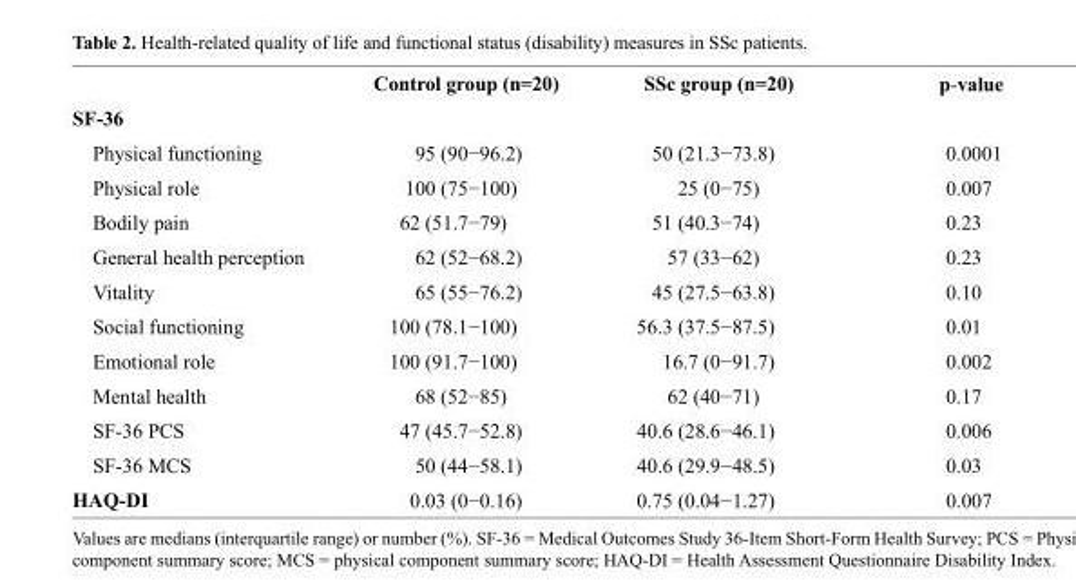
<table><thead><tr><td></td><td>Control group (n=20)</td><td>SSc group (n=20)</td><td>p-value</td></tr></thead><tbody><tr><td colspan="4">SF-36</td></tr><tr><td>Physical functioning</td><td>95 (90−96.2)</td><td>50 (21.3−73.8)</td><td>0.0001</td></tr><tr><td>Physical role</td><td>100 (75−100)</td><td>25 (0−75)</td><td>0.007</td></tr><tr><td>Bodily pain</td><td>62 (51.7−79)</td><td>51 (40.3−74)</td><td>0.23</td></tr><tr><td>General health perception</td><td>62 (52−68.2)</td><td>57 (33−62)</td><td>0.23</td></tr><tr><td>Vitality</td><td>65 (55−76.2)</td><td>45 (27.5−63.8)</td><td>0.10</td></tr><tr><td>Social functioning</td><td>100 (78.1−100)</td><td>56.3 (37.5−87.5)</td><td>0.01</td></tr><tr><td>Emotional role</td><td>100 (91.7−100)</td><td>16.7 (0−91.7)</td><td>0.002</td></tr><tr><td>Mental health</td><td>68 (52−85)</td><td>62 (40−71)</td><td>0.17</td></tr><tr><td>SF-36 PCS</td><td>47 (45.7−52.8)</td><td>40.6 (28.6−46.1)</td><td>0.006</td></tr><tr><td>SF-36 MCS</td><td>50 (44−58.1)</td><td>40.6 (29.9−48.5)</td><td>0.03</td></tr><tr><td>HAQ-DI</td><td>0.03 (0−0.16)</td><td>0.75 (0.04−1.27)</td><td>0.007</td></tr></tbody></table>